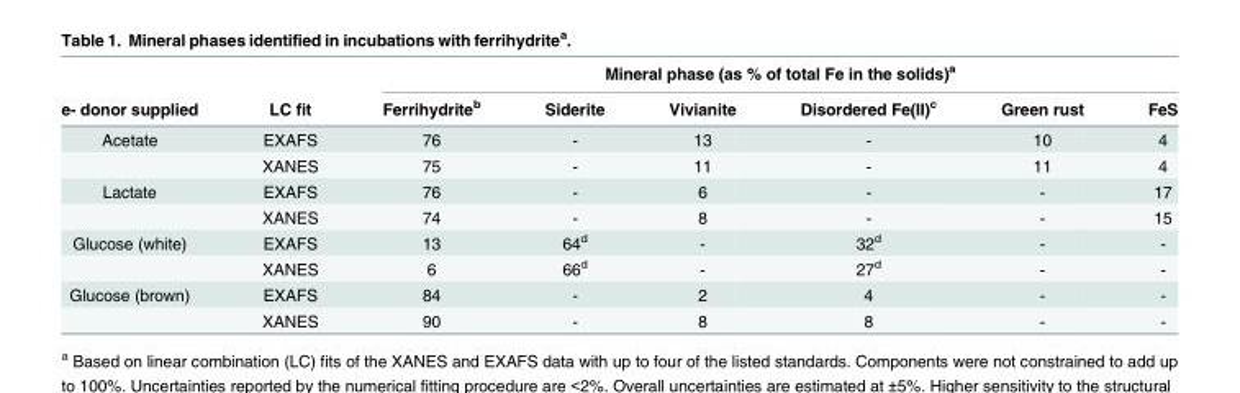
<table><thead><tr><td rowspan="2">e- donor supplied</td><td rowspan="2">LC fit</td><td colspan="6">Mineral phase (as % of total Fe in the solids)<sup>a</sup></td></tr><tr><td>Ferrihydrite<sup>b</sup></td><td>Siderite</td><td>Vivianite</td><td>Disordered Fe(II)<sup>c</sup></td><td>Green rust</td><td>FeS</td></tr></thead><tbody><tr><td rowspan="2">Acetate</td><td>EXAFS</td><td>76</td><td>-</td><td>13</td><td>-</td><td>10</td><td>4</td></tr><tr><td>XANES</td><td>75</td><td>-</td><td>11</td><td>-</td><td>11</td><td>4</td></tr><tr><td rowspan="2">Lactate</td><td>EXAFS</td><td>76</td><td>-</td><td>6</td><td>-</td><td>-</td><td>17</td></tr><tr><td>XANES</td><td>74</td><td>-</td><td>8</td><td>-</td><td>-</td><td>15</td></tr><tr><td rowspan="2">Glucose (white)</td><td>EXAFS</td><td>13</td><td>64<sup>d</sup></td><td>-</td><td>32<sup>d</sup></td><td>-</td><td>-</td></tr><tr><td>XANES</td><td>6</td><td>66<sup>d</sup></td><td>-</td><td>27<sup>d</sup></td><td>-</td><td>-</td></tr><tr><td rowspan="2">Glucose (brown)</td><td>EXAFS</td><td>84</td><td>-</td><td>2</td><td>4</td><td>-</td><td>-</td></tr><tr><td>XANES</td><td>90</td><td>-</td><td>8</td><td>8</td><td>-</td><td>-</td></tr></tbody></table>